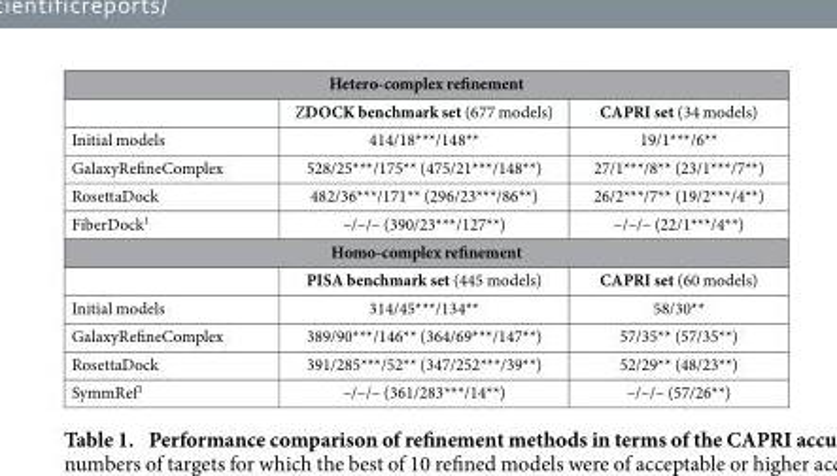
<table><thead><tr><td colspan="3">Hetero-complex refinement</td></tr><tr><td></td><td>ZDOCK benchmark set (677 models)</td><td>CAPRI set (34 models)</td></tr></thead><tbody><tr><td>Initial models</td><td>414/18***/148**</td><td>19/1***/6**</td></tr><tr><td>GalaxyRefineComplex</td><td>528/25***/175** (475/21***/148**)</td><td>27/1***/8** (23/1***/7**)</td></tr><tr><td>RosettaDock</td><td>482/36***/171** (296/23***/86**)</td><td>26/2***/7** (19/2***/4**)</td></tr><tr><td>FiberDock<sup>1</sup></td><td>–/–/– (390/23***/127**)</td><td>–/–/– (22/1***/4**)</td></tr><tr><td colspan="3">Homo-complex refinement</td></tr><tr><td></td><td>PISA benchmark set (445 models)</td><td>CAPRI set (60 models)</td></tr><tr><td>Initial models</td><td>314/45***/134**</td><td>58/30**</td></tr><tr><td>GalaxyRefineComplex</td><td>389/90***/146** (364/69***/147**)</td><td>57/35** (57/35**)</td></tr><tr><td>RosettaDock</td><td>391/285***/52** (347/252***/39**)</td><td>52/29** (48/23**)</td></tr><tr><td>SymmRef<sup>1</sup></td><td>–/–/– (361/283***/14**)</td><td>–/–/– (57/26**)</td></tr></tbody></table>